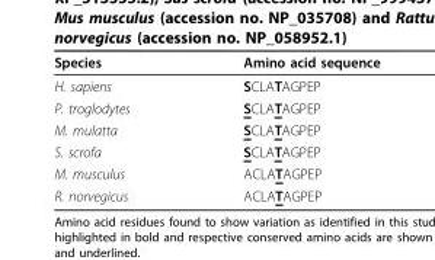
<table><thead><tr><td>Species</td><td>Amino acid sequence</td></tr></thead><tbody><tr><td>H. sapiens</td><td>SCLATAGPEP</td></tr><tr><td>P. troglodytes</td><td>SCLATAGPEP</td></tr><tr><td>M. mulatta</td><td>SCLATAGPEP</td></tr><tr><td>S. scrofa</td><td>SCLATAGPEP</td></tr><tr><td>M. musculus</td><td>ACLATAGPEP</td></tr><tr><td>R. norvegicus</td><td>ACLATAGPEP</td></tr></tbody></table>